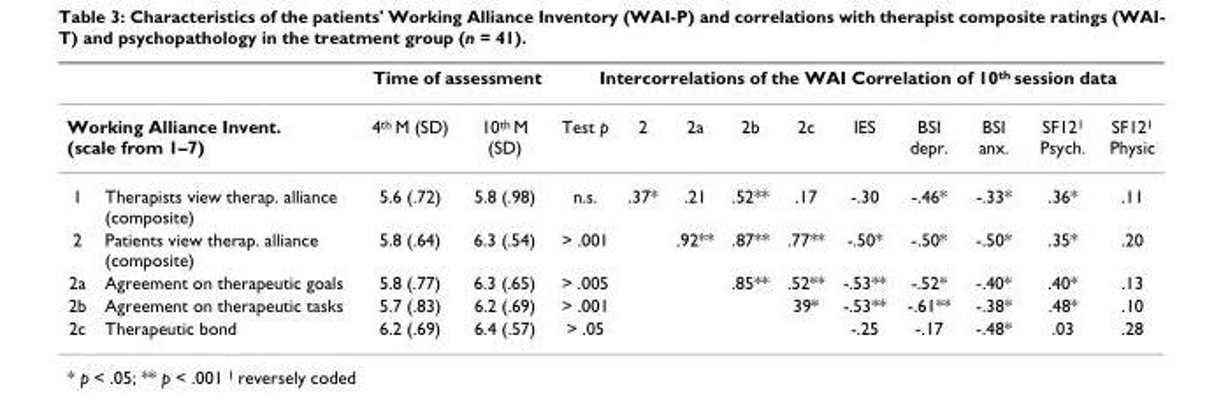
<table><thead><tr><td></td><td></td><td colspan="2">Time of assessment</td><td colspan="10">Intercorrelations of the WAI Correlation of 10<sup>th</sup> session data</td></tr><tr><td colspan="2">Working Alliance Invent. (scale from 1–7)</td><td>4<sup>th</sup> M (SD)</td><td>10<sup>th</sup> M (SD)</td><td>Test p</td><td>2</td><td>2a</td><td>2b</td><td>2c</td><td>IES</td><td>BSI depr.</td><td>BSI anx.</td><td>SF12<sup>1</sup> Psych.</td><td>SF12<sup>1</sup> Physic</td></tr></thead><tbody><tr><td>1</td><td>Therapists view therap. alliance (composite)</td><td>5.6 (.72)</td><td>5.8 (.98)</td><td>n.s.</td><td>.37*</td><td>.21</td><td>.52**</td><td>.17</td><td>-.30</td><td>-.46*</td><td>-.33*</td><td>.36*</td><td>.11</td></tr><tr><td>2</td><td>Patients view therap. alliance (composite)</td><td>5.8 (.64)</td><td>6.3 (.54)</td><td>&gt; .001</td><td></td><td>.92**</td><td>.87**</td><td>.77**</td><td>-.50*</td><td>-.50*</td><td>-.50*</td><td>.35*</td><td>.20</td></tr><tr><td>2a</td><td>Agreement on therapeutic goals</td><td>5.8 (.77)</td><td>6.3 (.65)</td><td>&gt; .005</td><td></td><td></td><td>.85**</td><td>.52**</td><td>-.53**</td><td>-.52*</td><td>-.40*</td><td>.40*</td><td>.13</td></tr><tr><td>2b</td><td>Agreement on therapeutic tasks</td><td>5.7 (.83)</td><td>6.2 (.69)</td><td>&gt; .001</td><td></td><td></td><td></td><td>39*</td><td>-.53**</td><td>-.61**</td><td>-.38*</td><td>.48*</td><td>.10</td></tr><tr><td>2c</td><td>Therapeutic bond</td><td>6.2 (.69)</td><td>6.4 (.57)</td><td>&gt; .05</td><td></td><td></td><td></td><td></td><td>-.25</td><td>-.17</td><td>-.48*</td><td>.03</td><td>.28</td></tr></tbody></table>